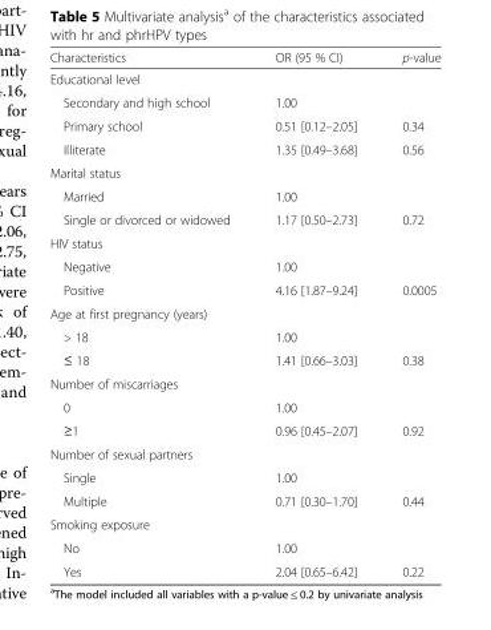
<table><thead><tr><td>Characteristics</td><td>OR (95 % CI)</td><td>p-value</td></tr></thead><tbody><tr><td colspan="3">Educational level</td></tr><tr><td>Secondary and high school</td><td>1.00</td><td></td></tr><tr><td>Primary school</td><td>0.51 [0.12–2.05]</td><td>0.34</td></tr><tr><td>Illiterate</td><td>1.35 [0.49–3.68]</td><td>0.56</td></tr><tr><td colspan="3">Marital status</td></tr><tr><td>Married</td><td>1.00</td><td></td></tr><tr><td>Single or divorced or widowed</td><td>1.17 [0.50–2.73]</td><td>0.72</td></tr><tr><td colspan="3">HIV status</td></tr><tr><td>Negative</td><td>1.00</td><td></td></tr><tr><td>Positive</td><td>4.16 [1.87–9.24]</td><td>0.0005</td></tr><tr><td colspan="3">Age at first pregnancy (years)</td></tr><tr><td>&gt; 18</td><td>1.00</td><td></td></tr><tr><td>≤ 18</td><td>1.41 [0.66–3.03]</td><td>0.38</td></tr><tr><td colspan="3">Number of miscarriages</td></tr><tr><td>0</td><td>1.00</td><td></td></tr><tr><td>≥1</td><td>0.96 [0.45–2.07]</td><td>0.92</td></tr><tr><td colspan="3">Number of sexual partners</td></tr><tr><td>Single</td><td>1.00</td><td></td></tr><tr><td>Multiple</td><td>0.71 [0.30–1.70]</td><td>0.44</td></tr><tr><td colspan="3">Smoking exposure</td></tr><tr><td>No</td><td>1.00</td><td></td></tr><tr><td>Yes</td><td>2.04 [0.65–6.42]</td><td>0.22</td></tr></tbody></table>